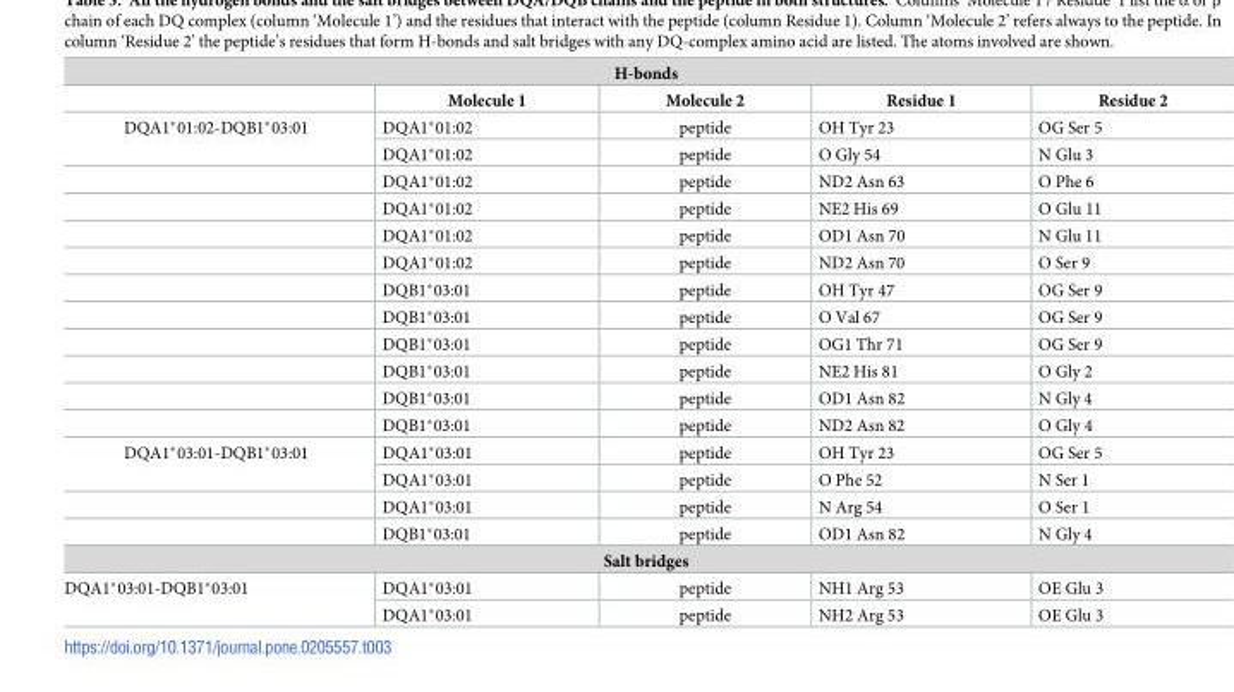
<table><thead><tr><td colspan="5">H-bonds</td></tr><tr><td></td><td>Molecule 1</td><td>Molecule 2</td><td>Residue 1</td><td>Residue 2</td></tr></thead><tbody><tr><td rowspan="12">DQA1*01:02-DQB1*03:01</td><td>DQA1*01:02</td><td>peptide</td><td>OH Tyr 23</td><td>OG Ser 5</td></tr><tr><td>DQA1*01:02</td><td>peptide</td><td>O Gly 54</td><td>N Glu 3</td></tr><tr><td>DQA1*01:02</td><td>peptide</td><td>ND2 Asn 63</td><td>O Phe 6</td></tr><tr><td>DQA1*01:02</td><td>peptide</td><td>NE2 His 69</td><td>O Glu 11</td></tr><tr><td>DQA1*01:02</td><td>peptide</td><td>OD1 Asn 70</td><td>N Glu 11</td></tr><tr><td>DQA1*01:02</td><td>peptide</td><td>ND2 Asn 70</td><td>O Ser 9</td></tr><tr><td>DQB1*03:01</td><td>peptide</td><td>OH Tyr 47</td><td>OG Ser 9</td></tr><tr><td>DQB1*03:01</td><td>peptide</td><td>O Val 67</td><td>OG Ser 9</td></tr><tr><td>DQB1*03:01</td><td>peptide</td><td>OG1 Thr 71</td><td>OG Ser 9</td></tr><tr><td>DQB1*03:01</td><td>peptide</td><td>NE2 His 81</td><td>O Gly 2</td></tr><tr><td>DQB1*03:01</td><td>peptide</td><td>OD1 Asn 82</td><td>N Gly 4</td></tr><tr><td>DQB1*03:01</td><td>peptide</td><td>ND2 Asn 82</td><td>O Gly 4</td></tr><tr><td rowspan="4">DQA1*03:01-DQB1*03:01</td><td>DQA1*03:01</td><td>peptide</td><td>OH Tyr 23</td><td>OG Ser 5</td></tr><tr><td>DQA1*03:01</td><td>peptide</td><td>O Phe 52</td><td>N Ser 1</td></tr><tr><td>DQA1*03:01</td><td>peptide</td><td>N Arg 54</td><td>O Ser 1</td></tr><tr><td>DQB1*03:01</td><td>peptide</td><td>OD1 Asn 82</td><td>N Gly 4</td></tr><tr><td colspan="5">Salt bridges</td></tr><tr><td rowspan="2">DQA1*03:01-DQB1*03:01</td><td>DQA1*03:01</td><td>peptide</td><td>NH1 Arg 53</td><td>OE Glu 3</td></tr><tr><td>DQA1*03:01</td><td>peptide</td><td>NH2 Arg 53</td><td>OE Glu 3</td></tr></tbody></table>